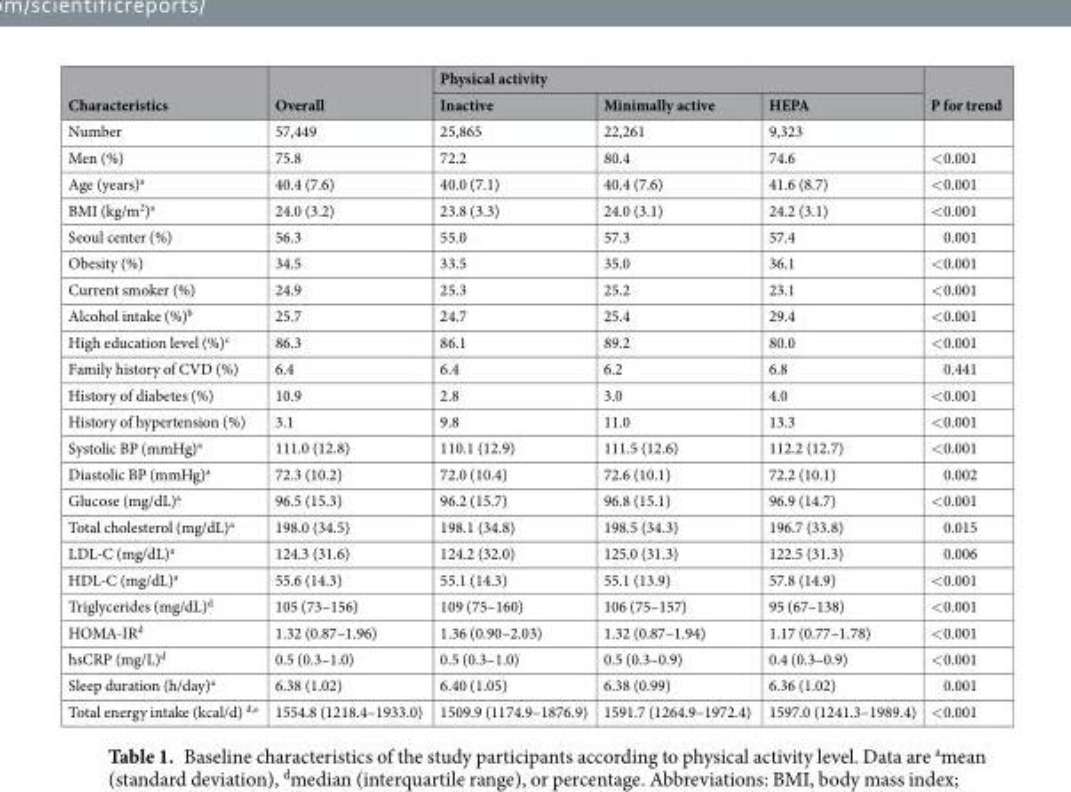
<table><thead><tr><td rowspan="2">Characteristics</td><td rowspan="2">Overall</td><td colspan="3">Physical activity</td><td rowspan="2">P for trend</td></tr><tr><td>Inactive</td><td>Minimally active</td><td>HEPA</td></tr></thead><tbody><tr><td>Number</td><td>57,449</td><td>25,865</td><td>22,261</td><td>9,323</td><td></td></tr><tr><td>Men (%)</td><td>75.8</td><td>72.2</td><td>80.4</td><td>74.6</td><td>&lt;0.001</td></tr><tr><td>Age (years)<sup>a</sup></td><td>40.4 (7.6)</td><td>40.0 (7.1)</td><td>40.4 (7.6)</td><td>41.6 (8.7)</td><td>&lt;0.001</td></tr><tr><td>BMI (kg/m<sup>2</sup>)<sup>a</sup></td><td>24.0 (3.2)</td><td>23.8 (3.3)</td><td>24.0 (3.1)</td><td>24.2 (3.1)</td><td>&lt;0.001</td></tr><tr><td>Seoul center (%)</td><td>56.3</td><td>55.0</td><td>57.3</td><td>57.4</td><td>0.001</td></tr><tr><td>Obesity (%)</td><td>34.5</td><td>33.5</td><td>35.0</td><td>36.1</td><td>&lt;0.001</td></tr><tr><td>Current smoker (%)</td><td>24.9</td><td>25.3</td><td>25.2</td><td>23.1</td><td>&lt;0.001</td></tr><tr><td>Alcohol intake (%)<sup>b</sup></td><td>25.7</td><td>24.7</td><td>25.4</td><td>29.4</td><td>&lt;0.001</td></tr><tr><td>High education level (%)<sup>c</sup></td><td>86.3</td><td>86.1</td><td>89.2</td><td>80.0</td><td>&lt;0.001</td></tr><tr><td>Family history of CVD (%)</td><td>6.4</td><td>6.4</td><td>6.2</td><td>6.8</td><td>0.441</td></tr><tr><td>History of diabetes (%)</td><td>10.9</td><td>2.8</td><td>3.0</td><td>4.0</td><td>&lt;0.001</td></tr><tr><td>History of hypertension (%)</td><td>3.1</td><td>9.8</td><td>11.0</td><td>13.3</td><td>&lt;0.001</td></tr><tr><td>Systolic BP (mmHg)<sup>a</sup></td><td>111.0 (12.8)</td><td>110.1 (12.9)</td><td>111.5 (12.6)</td><td>112.2 (12.7)</td><td>&lt;0.001</td></tr><tr><td>Diastolic BP (mmHg)<sup>a</sup></td><td>72.3 (10.2)</td><td>72.0 (10.4)</td><td>72.6 (10.1)</td><td>72.2 (10.1)</td><td>0.002</td></tr><tr><td>Glucose (mg/dL)<sup>a</sup></td><td>96.5 (15.3)</td><td>96.2 (15.7)</td><td>96.8 (15.1)</td><td>96.9 (14.7)</td><td>&lt;0.001</td></tr><tr><td>Total cholesterol (mg/dL)<sup>a</sup></td><td>198.0 (34.5)</td><td>198.1 (34.8)</td><td>198.5 (34.3)</td><td>196.7 (33.8)</td><td>0.015</td></tr><tr><td>LDL-C (mg/dL)<sup>a</sup></td><td>124.3 (31.6)</td><td>124.2 (32.0)</td><td>125.0 (31.3)</td><td>122.5 (31.3)</td><td>0.006</td></tr><tr><td>HDL-C (mg/dL)<sup>a</sup></td><td>55.6 (14.3)</td><td>55.1 (14.3)</td><td>55.1 (13.9)</td><td>57.8 (14.9)</td><td>&lt;0.001</td></tr><tr><td>Triglycerides (mg/dL)<sup>d</sup></td><td>105 (73–156)</td><td>109 (75–160)</td><td>106 (75–157)</td><td>95 (67–138)</td><td>&lt;0.001</td></tr><tr><td>HOMA-IR<sup>d</sup></td><td>1.32 (0.87–1.96)</td><td>1.36 (0.90–2.03)</td><td>1.32 (0.87–1.94)</td><td>1.17 (0.77–1.78)</td><td>&lt;0.001</td></tr><tr><td>hsCRP (mg/L)<sup>d</sup></td><td>0.5 (0.3–1.0)</td><td>0.5 (0.3–1.0)</td><td>0.5 (0.3–0.9)</td><td>0.4 (0.3–0.9)</td><td>&lt;0.001</td></tr><tr><td>Sleep duration (h/day)<sup>a</sup></td><td>6.38 (1.02)</td><td>6.40 (1.05)</td><td>6.38 (0.99)</td><td>6.36 (1.02)</td><td>0.001</td></tr><tr><td>Total energy intake (kcal/d) <sup>d,e</sup></td><td>1554.8 (1218.4–1933.0)</td><td>1509.9 (1174.9–1876.9)</td><td>1591.7 (1264.9–1972.4)</td><td>1597.0 (1241.3–1989.4)</td><td>&lt;0.001</td></tr></tbody></table>